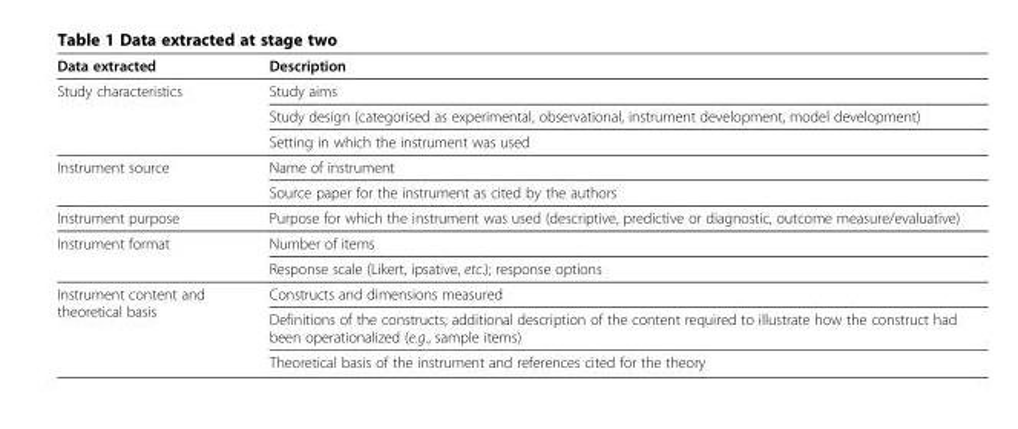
<table><thead><tr><td>Data extracted</td><td>Description</td></tr></thead><tbody><tr><td rowspan="3">Study characteristics</td><td>Study aims</td></tr><tr><td>Study design (categorised as experimental, observational, instrument development, model development)</td></tr><tr><td>Setting in which the instrument was used</td></tr><tr><td rowspan="2">Instrument source</td><td>Name of instrument</td></tr><tr><td>Source paper for the instrument as cited by the authors</td></tr><tr><td>Instrument purpose</td><td>Purpose for which the instrument was used (descriptive, predictive or diagnostic, outcome measure/evaluative)</td></tr><tr><td rowspan="2">Instrument format</td><td>Number of items</td></tr><tr><td>Response scale (Likert, ipsative, etc.); response options</td></tr><tr><td rowspan="3">Instrument content and theoretical basis</td><td>Constructs and dimensions measured</td></tr><tr><td>Definitions of the constructs; additional description of the content required to illustrate how the construct had been operationalized (e.g., sample items)</td></tr><tr><td>Theoretical basis of the instrument and references cited for the theory</td></tr></tbody></table>